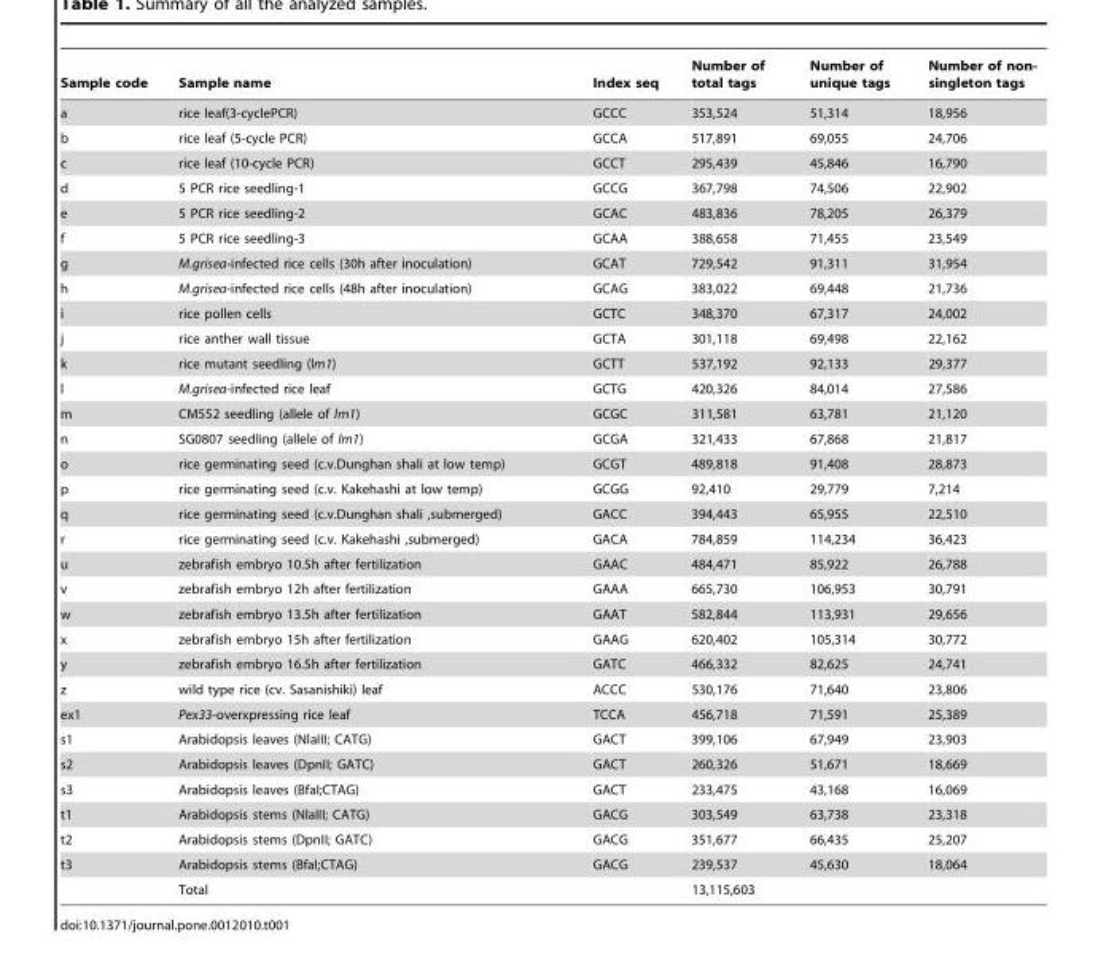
<table><thead><tr><td>Sample code</td><td>Sample name</td><td>Index seq</td><td>Number of total tags</td><td>Number of unique tags</td><td>Number of non- singleton tags</td></tr></thead><tbody><tr><td>a</td><td>rice leaf(3-cyclePCR)</td><td>GCCC</td><td>353,524</td><td>51,314</td><td>18,956</td></tr><tr><td>b</td><td>rice leaf (5-cycle PCR)</td><td>GCCA</td><td>517,891</td><td>69,055</td><td>24,706</td></tr><tr><td>c</td><td>rice leaf (10-cycle PCR)</td><td>GCCT</td><td>295,439</td><td>45,846</td><td>16,790</td></tr><tr><td>d</td><td>5 PCR rice seedling-1</td><td>GCCG</td><td>367,798</td><td>74,506</td><td>22,902</td></tr><tr><td>e</td><td>5 PCR rice seedling-2</td><td>GCAC</td><td>483,836</td><td>78,205</td><td>26,379</td></tr><tr><td>f</td><td>5 PCR rice seedling-3</td><td>GCAA</td><td>388,658</td><td>71,455</td><td>23,549</td></tr><tr><td>g</td><td>M.grisea-infected rice cells (30h after inoculation)</td><td>GCAT</td><td>729,542</td><td>91,311</td><td>31,954</td></tr><tr><td>h</td><td>M.grisea-infected rice cells (48h after inoculation)</td><td>GCAG</td><td>383,022</td><td>69,448</td><td>21,736</td></tr><tr><td>i</td><td>rice pollen cells</td><td>GCTC</td><td>348,370</td><td>67,317</td><td>24,002</td></tr><tr><td>j</td><td>rice anther wall tissue</td><td>GCTA</td><td>301,118</td><td>69,498</td><td>22,162</td></tr><tr><td>k</td><td>rice mutant seedling (lm1)</td><td>GCTT</td><td>537,192</td><td>92,133</td><td>29,377</td></tr><tr><td>l</td><td>M.grisea-infected rice leaf</td><td>GCTG</td><td>420,326</td><td>84,014</td><td>27,586</td></tr><tr><td>m</td><td>CM552 seedling (allele of lm1)</td><td>GCGC</td><td>311,581</td><td>63,781</td><td>21,120</td></tr><tr><td>n</td><td>SG0807 seedling (allele of lm1)</td><td>GCGA</td><td>321,433</td><td>67,868</td><td>21,817</td></tr><tr><td>o</td><td>rice germinating seed (c.v.Dunghan shali at low temp)</td><td>GCGT</td><td>489,818</td><td>91,408</td><td>28,873</td></tr><tr><td>p</td><td>rice germinating seed (c.v. Kakehashi at low temp)</td><td>GCGG</td><td>92,410</td><td>29,779</td><td>7,214</td></tr><tr><td>q</td><td>rice germinating seed (c.v.Dunghan shali ,submerged)</td><td>GACC</td><td>394,443</td><td>65,955</td><td>22,510</td></tr><tr><td>r</td><td>rice germinating seed (c.v. Kakehashi ,submerged)</td><td>GACA</td><td>784,859</td><td>114,234</td><td>36,423</td></tr><tr><td>u</td><td>zebrafish embryo 10.5h after fertilization</td><td>GAAC</td><td>484,471</td><td>85,922</td><td>26,788</td></tr><tr><td>v</td><td>zebrafish embryo 12h after fertilization</td><td>GAAA</td><td>665,730</td><td>106,953</td><td>30,791</td></tr><tr><td>w</td><td>zebrafish embryo 13.5h after fertilization</td><td>GAAT</td><td>582,844</td><td>113,931</td><td>29,656</td></tr><tr><td>x</td><td>zebrafish embryo 15h after fertilization</td><td>GAAG</td><td>620,402</td><td>105,314</td><td>30,772</td></tr><tr><td>y</td><td>zebrafish embryo 16.5h after fertilization</td><td>GATC</td><td>466,332</td><td>82,625</td><td>24,741</td></tr><tr><td>z</td><td>wild type rice (cv. Sasanishiki) leaf</td><td>ACCC</td><td>530,176</td><td>71,640</td><td>23,806</td></tr><tr><td>ex1</td><td>Pex33-overxpressing rice leaf</td><td>TCCA</td><td>456,718</td><td>71,591</td><td>25,389</td></tr><tr><td>s1</td><td>Arabidopsis leaves (NlaIII; CATG)</td><td>GACT</td><td>399,106</td><td>67,949</td><td>23,903</td></tr><tr><td>s2</td><td>Arabidopsis leaves (DpnII; GATC)</td><td>GACT</td><td>260,326</td><td>51,671</td><td>18,669</td></tr><tr><td>s3</td><td>Arabidopsis leaves (BfaI;CTAG)</td><td>GACT</td><td>233,475</td><td>43,168</td><td>16,069</td></tr><tr><td>t1</td><td>Arabidopsis stems (NlaIII; CATG)</td><td>GACG</td><td>303,549</td><td>63,738</td><td>23,318</td></tr><tr><td>t2</td><td>Arabidopsis stems (DpnII; GATC)</td><td>GACG</td><td>351,677</td><td>66,435</td><td>25,207</td></tr><tr><td rowspan="2">t3</td><td>Arabidopsis stems (BfaI;CTAG)</td><td>GACG</td><td>239,537</td><td>45,630</td><td>18,064</td></tr><tr><td>Total</td><td></td><td>13,115,603</td><td></td><td></td></tr></tbody></table>